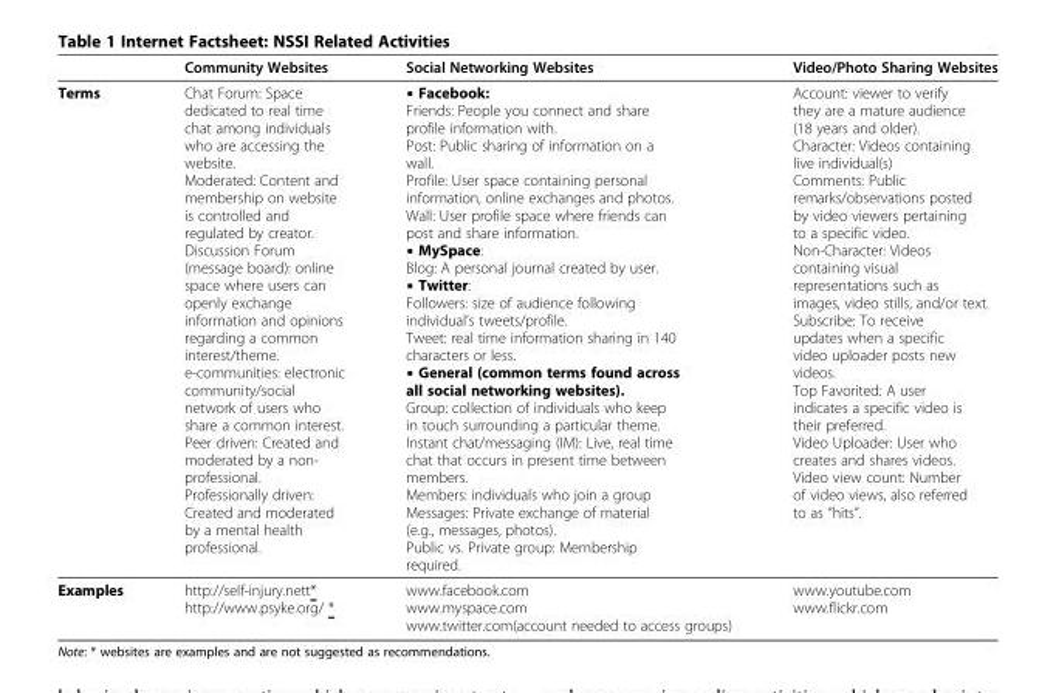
<table><thead><tr><td></td><td>Community Websites</td><td>Social Networking Websites</td><td>Video/Photo Sharing Websites</td></tr></thead><tbody><tr><td>Terms</td><td>Chat Forum: Space dedicated to real time chat among individuals who are accessing the website. Moderated: Content and membership on website is controlled and regulated by creator. Discussion Forum (message board): online space where users can openly exchange information and opinions regarding a common interest/theme. e-communities: electronic community/social network of users who share a common interest. Peer driven: Created and moderated by a non- professional. Professionally driven: Created and moderated by a mental health professional.</td><td>▪ Facebook: Friends: People you connect and share profile information with. Post: Public sharing of information on a wall. Profile: User space containing personal information, online exchanges and photos. Wall: User profile space where friends can post and share information. ▪ MySpace: Blog: A personal journal created by user. ▪ Twitter: Followers: size of audience following individual’s tweets/profile. Tweet: real time information sharing in 140 characters or less. ▪ General (common terms found across all social networking websites). Group: collection of individuals who keep in touch surrounding a particular theme. Instant chat/messaging (IM): Live, real time chat that occurs in present time between members. Members: individuals who join a group Messages: Private exchange of material (e.g., messages, photos). Public vs. Private group: Membership required.</td><td>Account: viewer to verify they are a mature audience (18 years and older). Character: Videos containing live individual(s) Comments: Public remarks/observations posted by video viewers pertaining to a specific video. Non-Character: Videos containing visual representations such as images, video stills, and/or text. Subscribe: To receive updates when a specific video uploader posts new videos. Top Favorited: A user indicates a specific video is their preferred. Video Uploader: User who creates and shares videos. Video view count: Number of video views, also referred to as “hits”.</td></tr><tr><td>Examples</td><td>http://self-injury.nett* http://www.psyke.org/ *</td><td>www.facebook.com www.myspace.com www.twitter.com(account needed to access groups)</td><td>www.youtube.com www.flickr.com</td></tr></tbody></table>